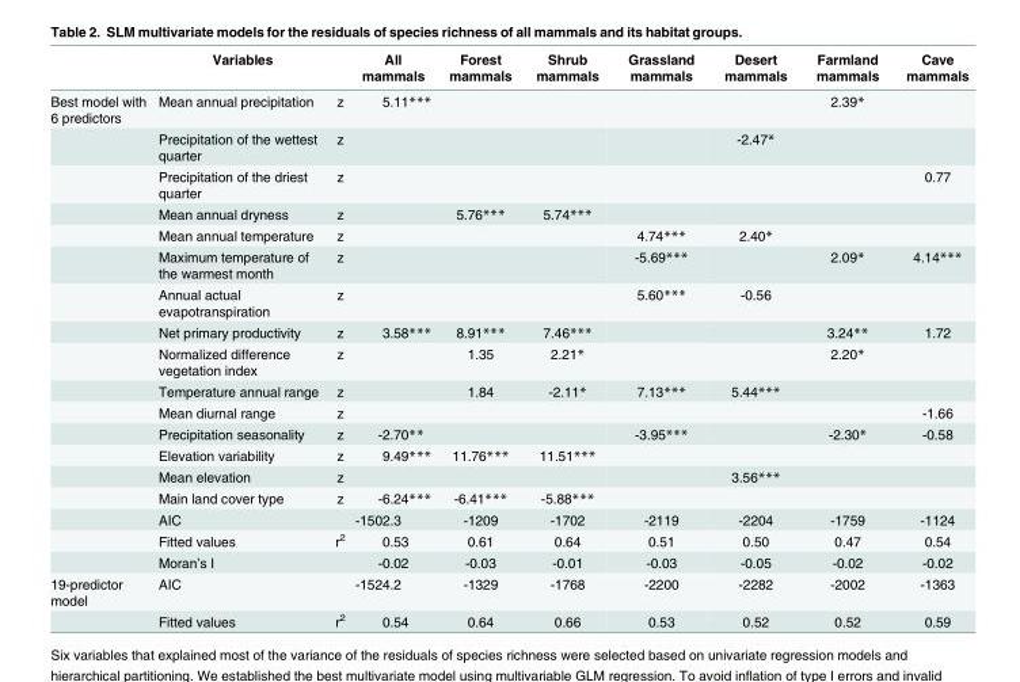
<table><thead><tr><td></td><td>Variables</td><td></td><td>All mammals</td><td>Forest mammals</td><td>Shrub mammals</td><td>Grassland mammals</td><td>Desert mammals</td><td>Farmland mammals</td><td>Cave mammals</td></tr></thead><tbody><tr><td rowspan="18">Best model with 6 predictors</td><td>Mean annual precipitation</td><td>z</td><td>5.11***</td><td></td><td></td><td></td><td></td><td>2.39*</td><td></td></tr><tr><td>Precipitation of the wettest quarter</td><td>z</td><td></td><td></td><td></td><td></td><td>-2.47*</td><td></td><td></td></tr><tr><td>Precipitation of the driest quarter</td><td>z</td><td></td><td></td><td></td><td></td><td></td><td></td><td>0.77</td></tr><tr><td>Mean annual dryness</td><td>z</td><td></td><td>5.76***</td><td>5.74***</td><td></td><td></td><td></td><td></td></tr><tr><td>Mean annual temperature</td><td>z</td><td></td><td></td><td></td><td>4.74***</td><td>2.40*</td><td></td><td></td></tr><tr><td>Maximum temperature of the warmest month</td><td>z</td><td></td><td></td><td></td><td>-5.69***</td><td></td><td>2.09*</td><td>4.14***</td></tr><tr><td>Annual actual evapotranspiration</td><td>z</td><td></td><td></td><td></td><td>5.60***</td><td>-0.56</td><td></td><td></td></tr><tr><td>Net primary productivity</td><td>z</td><td>3.58***</td><td>8.91***</td><td>7.46***</td><td></td><td></td><td>3.24**</td><td>1.72</td></tr><tr><td>Normalized difference vegetation index</td><td>z</td><td></td><td>1.35</td><td>2.21*</td><td></td><td></td><td>2.20*</td><td></td></tr><tr><td>Temperature annual range</td><td>z</td><td></td><td>1.84</td><td>-2.11*</td><td>7.13***</td><td>5.44***</td><td></td><td></td></tr><tr><td>Mean diurnal range</td><td>z</td><td></td><td></td><td></td><td></td><td></td><td></td><td>-1.66</td></tr><tr><td>Precipitation seasonality</td><td>z</td><td>-2.70**</td><td></td><td></td><td>-3.95***</td><td></td><td>-2.30*</td><td>-0.58</td></tr><tr><td>Elevation variability</td><td>z</td><td>9.49***</td><td>11.76***</td><td>11.51***</td><td></td><td></td><td></td><td></td></tr><tr><td>Mean elevation</td><td>z</td><td></td><td></td><td></td><td></td><td>3.56***</td><td></td><td></td></tr><tr><td>Main land cover type</td><td>z</td><td>-6.24***</td><td>-6.41***</td><td>-5.88***</td><td></td><td></td><td></td><td></td></tr><tr><td>AIC</td><td></td><td>-1502.3</td><td>-1209</td><td>-1702</td><td>-2119</td><td>-2204</td><td>-1759</td><td>-1124</td></tr><tr><td>Fitted values</td><td>r<sup>2</sup></td><td>0.53</td><td>0.61</td><td>0.64</td><td>0.51</td><td>0.50</td><td>0.47</td><td>0.54</td></tr><tr><td>Moran’s I</td><td></td><td>-0.02</td><td>-0.03</td><td>-0.01</td><td>-0.03</td><td>-0.05</td><td>-0.02</td><td>-0.02</td></tr><tr><td rowspan="2">19-predictor model</td><td>AIC</td><td></td><td>-1524.2</td><td>-1329</td><td>-1768</td><td>-2200</td><td>-2282</td><td>-2002</td><td>-1363</td></tr><tr><td>Fitted values</td><td>r<sup>2</sup></td><td>0.54</td><td>0.64</td><td>0.66</td><td>0.53</td><td>0.52</td><td>0.52</td><td>0.59</td></tr></tbody></table>